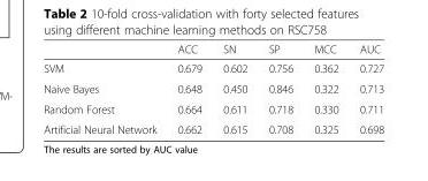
<table><thead><tr><td></td><td>ACC</td><td>SN</td><td>SP</td><td>MCC</td><td>AUC</td></tr></thead><tbody><tr><td>SVM</td><td>0.679</td><td>0.602</td><td>0.756</td><td>0.362</td><td>0.727</td></tr><tr><td>Naive Bayes</td><td>0.648</td><td>0.450</td><td>0.846</td><td>0.322</td><td>0.713</td></tr><tr><td>Random Forest</td><td>0.664</td><td>0.611</td><td>0.718</td><td>0.330</td><td>0.711</td></tr><tr><td>Artificial Neural Network</td><td>0.662</td><td>0.615</td><td>0.708</td><td>0.325</td><td>0.698</td></tr></tbody></table>